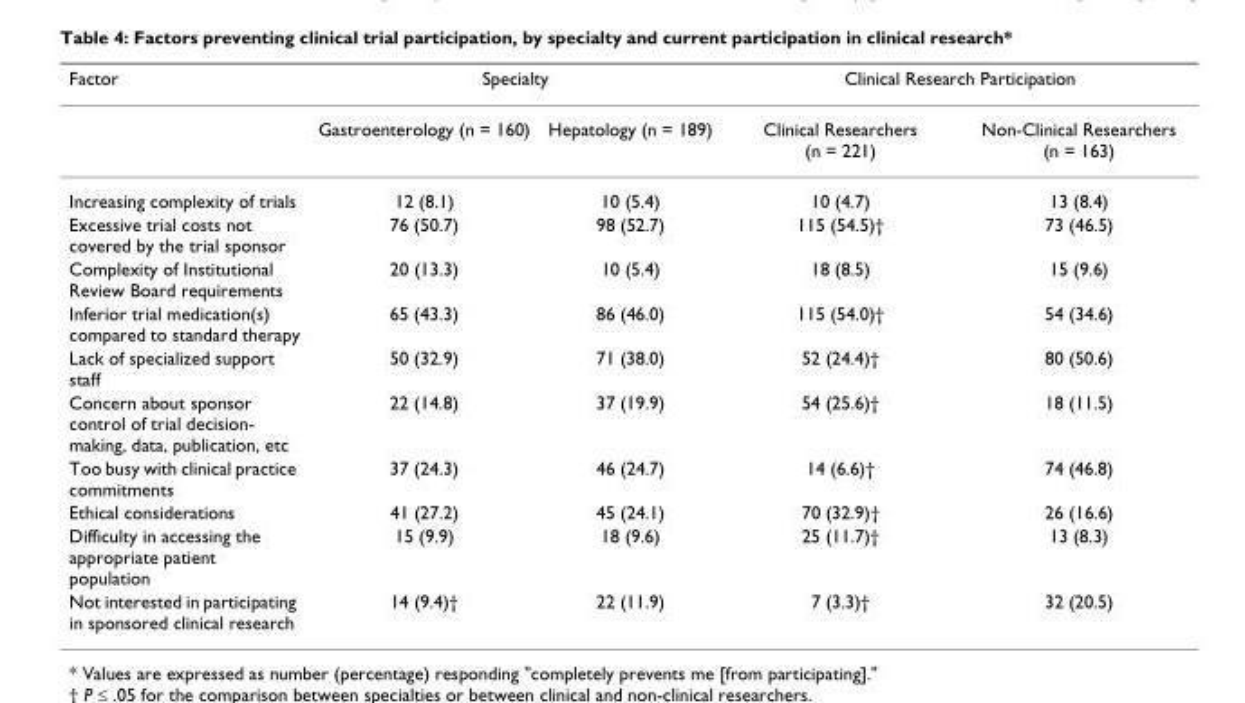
<table><thead><tr><td rowspan="2">Factor</td><td colspan="2">Specialty</td><td colspan="2">Clinical Research Participation</td></tr><tr><td>Gastroenterology (n = 160)</td><td>Hepatology (n = 189)</td><td>Clinical Researchers (n = 221)</td><td>Non-Clinical Researchers (n = 163)</td></tr></thead><tbody><tr><td>Increasing complexity of trials</td><td>12 (8.1)</td><td>10 (5.4)</td><td>10 (4.7)</td><td>13 (8.4)</td></tr><tr><td>Excessive trial costs not covered by the trial sponsor</td><td>76 (50.7)</td><td>98 (52.7)</td><td>115 (54.5)†</td><td>73 (46.5)</td></tr><tr><td>Complexity of Institutional Review Board requirements</td><td>20 (13.3)</td><td>10 (5.4)</td><td>18 (8.5)</td><td>15 (9.6)</td></tr><tr><td>Inferior trial medication(s) compared to standard therapy</td><td>65 (43.3)</td><td>86 (46.0)</td><td>115 (54.0)†</td><td>54 (34.6)</td></tr><tr><td>Lack of specialized support staff</td><td>50 (32.9)</td><td>71 (38.0)</td><td>52 (24.4)†</td><td>80 (50.6)</td></tr><tr><td>Concern about sponsor control of trial decision- making, data, publication, etc</td><td>22 (14.8)</td><td>37 (19.9)</td><td>54 (25.6)†</td><td>18 (11.5)</td></tr><tr><td>Too busy with clinical practice commitments</td><td>37 (24.3)</td><td>46 (24.7)</td><td>14 (6.6)†</td><td>74 (46.8)</td></tr><tr><td>Ethical considerations</td><td>41 (27.2)</td><td>45 (24.1)</td><td>70 (32.9)†</td><td>26 (16.6)</td></tr><tr><td>Difficulty in accessing the appropriate patient population</td><td>15 (9.9)</td><td>18 (9.6)</td><td>25 (11.7)†</td><td>13 (8.3)</td></tr><tr><td>Not interested in participating in sponsored clinical research</td><td>14 (9.4)†</td><td>22 (11.9)</td><td>7 (3.3)†</td><td>32 (20.5)</td></tr></tbody></table>